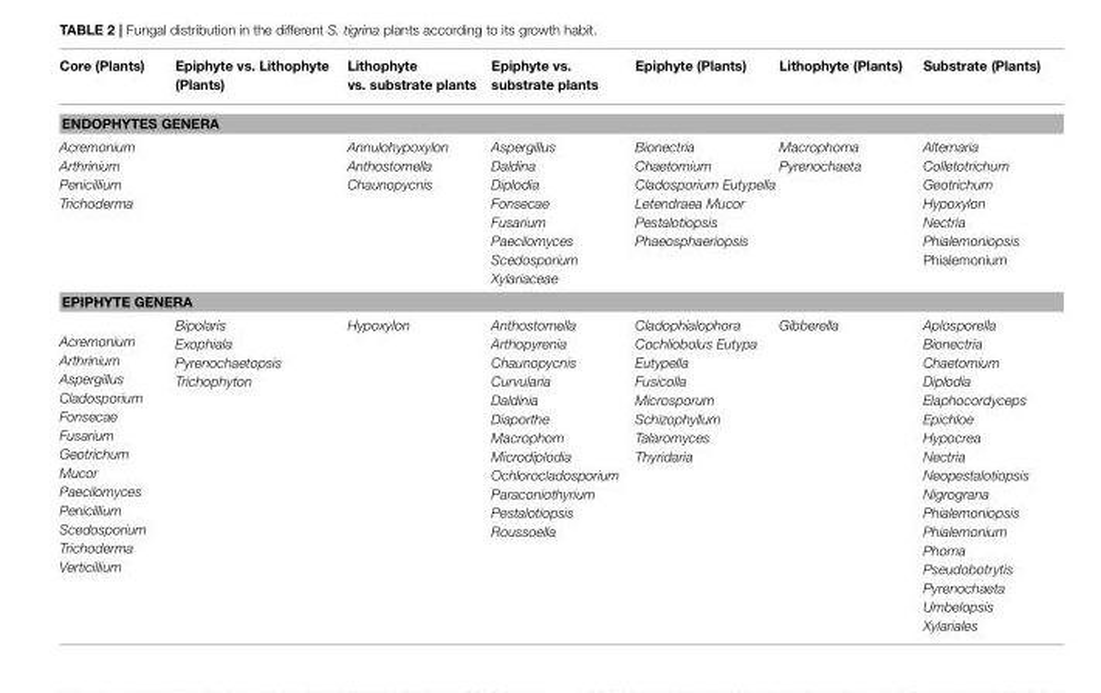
<table><thead><tr><td>Core (Plants)</td><td>Epiphyte vs. Lithophyte (Plants)</td><td>Lithophyte vs. substrate plants</td><td>Epiphyte vs. substrate plants</td><td>Epiphyte (Plants)</td><td>Lithophyte (Plants)</td><td>Substrate (Plants)</td></tr></thead><tbody><tr><td colspan="7">ENDOPHYTES GENERA</td></tr><tr><td>Acremonium Arthrinium Penicillium Trichoderma</td><td></td><td>Annulohypoxylon Anthostomella Chaunopycnis</td><td>Aspergillus Daldina Diplodia Fonsecae Fusarium Paecilomyces Scedosporium Xylariaceae</td><td>Bionectria Chaetomium Cladosporium Eutypella Letendraea Mucor Pestalotiopsis Phaeosphaeriopsis</td><td>Macrophoma Pyrenochaeta</td><td>Alternaria Colletotrichum Geotrichum Hypoxylon Nectria Phialemoniopsis Phialemonium</td></tr><tr><td colspan="7">EPIPHYTE GENERA</td></tr><tr><td>Acremonium Arthrinium Aspergillus Cladosporium Fonsecae Fusarium Geotrichum Mucor Paecilomyces Penicillium Scedosporium Trichoderma Verticillium</td><td>Bipolaris Exophiala Pyrenochaetopsis Trichophyton</td><td>Hypoxylon</td><td>Anthostomella Arthopyrenia Chaunopycnis Curvularia Daldinia Diaporthe Macrophom Microdiplodia Ochlorocladosporium Paraconiothyrium Pestalotiopsis Roussoella</td><td>Cladophialophora Cochliobolus Eutypa Eutypella Fusicolla Microsporum Schizophyllum Talaromyces Thyridaria</td><td>Gibberella</td><td>Aplosporella Bionectria Chaetomium Diplodia Elaphocordyceps Epichloe Hypocrea Nectria Neopestalotiopsis Nigrograna Phialemoniopsis Phialemonium Phoma Pseudobotrytis Pyrenochaeta Umbelopsis Xylariales</td></tr></tbody></table>